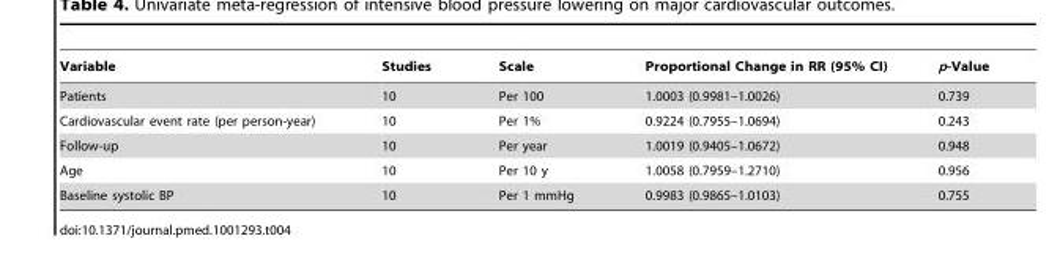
<table><thead><tr><td>Variable</td><td>Studies</td><td>Scale</td><td>Proportional Change in RR (95% CI)</td><td>p-Value</td></tr></thead><tbody><tr><td>Patients</td><td>10</td><td>Per 100</td><td>1.0003 (0.9981–1.0026)</td><td>0.739</td></tr><tr><td>Cardiovascular event rate (per person-year)</td><td>10</td><td>Per 1%</td><td>0.9224 (0.7955–1.0694)</td><td>0.243</td></tr><tr><td>Follow-up</td><td>10</td><td>Per year</td><td>1.0019 (0.9405–1.0672)</td><td>0.948</td></tr><tr><td>Age</td><td>10</td><td>Per 10 y</td><td>1.0058 (0.7959–1.2710)</td><td>0.956</td></tr><tr><td>Baseline systolic BP</td><td>10</td><td>Per 1 mmHg</td><td>0.9983 (0.9865–1.0103)</td><td>0.755</td></tr></tbody></table>